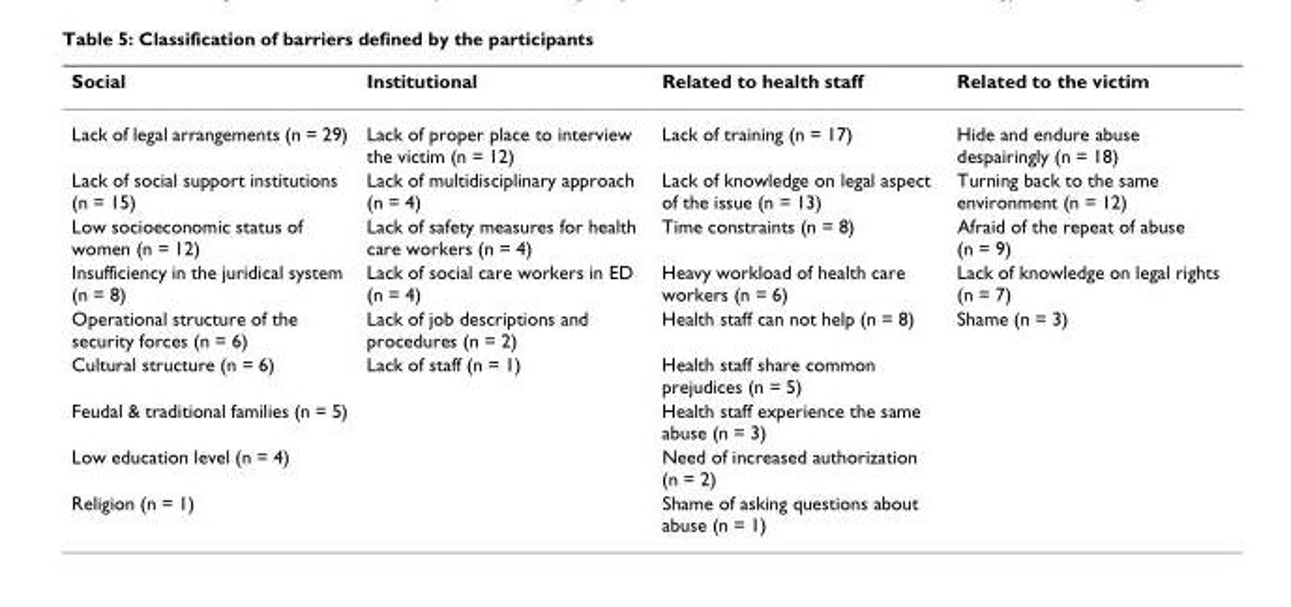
<table><thead><tr><td>Social</td><td>Institutional</td><td>Related to health staff</td><td>Related to the victim</td></tr></thead><tbody><tr><td>Lack of legal arrangements (n = 29)</td><td>Lack of proper place to interview the victim (n = 12)</td><td>Lack of training (n = 17)</td><td>Hide and endure abuse despairingly (n = 18)</td></tr><tr><td>Lack of social support institutions (n = 15)</td><td>Lack of multidisciplinary approach (n = 4)</td><td>Lack of knowledge on legal aspect of the issue (n = 13)</td><td>Turning back to the same environment (n = 12)</td></tr><tr><td>Low socioeconomic status of women (n = 12)</td><td>Lack of safety measures for health care workers (n = 4)</td><td>Time constraints (n = 8)</td><td>Afraid of the repeat of abuse (n = 9)</td></tr><tr><td>Insufficiency in the juridical system (n = 8)</td><td>Lack of social care workers in ED (n = 4)</td><td>Heavy workload of health care workers (n = 6)</td><td>Lack of knowledge on legal rights (n = 7)</td></tr><tr><td>Operational structure of the security forces (n = 6)</td><td>Lack of job descriptions and procedures (n = 2)</td><td>Health staff can not help (n = 8)</td><td>Shame (n = 3)</td></tr><tr><td>Cultural structure (n = 6)</td><td>Lack of staff (n = 1)</td><td>Health staff share common prejudices (n = 5)</td><td></td></tr><tr><td>Feudal &amp; traditional families (n = 5)</td><td></td><td>Health staff experience the same abuse (n = 3)</td><td></td></tr><tr><td>Low education level (n = 4)</td><td></td><td>Need of increased authorization (n = 2)</td><td></td></tr><tr><td>Religion (n = 1)</td><td></td><td>Shame of asking questions about abuse (n = 1)</td><td></td></tr></tbody></table>